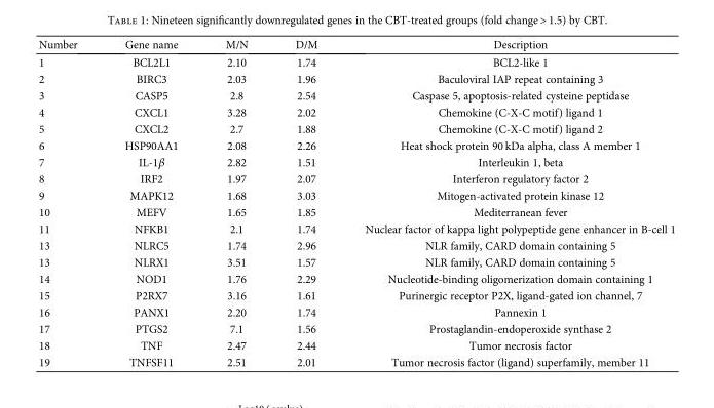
<table><thead><tr><td>Number</td><td>Gene name</td><td>M/N</td><td>D/M</td><td>Description</td></tr></thead><tbody><tr><td>1</td><td>BCL2L1</td><td>2.10</td><td>1.74</td><td>BCL2-like 1</td></tr><tr><td>2</td><td>BIRC3</td><td>2.03</td><td>1.96</td><td>Baculoviral IAP repeat containing 3</td></tr><tr><td>3</td><td>CASP5</td><td>2.8</td><td>2.54</td><td>Caspase 5, apoptosis-related cysteine peptidase</td></tr><tr><td>4</td><td>CXCL1</td><td>3.28</td><td>2.02</td><td>Chemokine (C-X-C motif) ligand 1</td></tr><tr><td>5</td><td>CXCL2</td><td>2.7</td><td>1.88</td><td>Chemokine (C-X-C motif) ligand 2</td></tr><tr><td>6</td><td>HSP90AA1</td><td>2.08</td><td>2.26</td><td>Heat shock protein 90 kDa alpha, class A member 1</td></tr><tr><td>7</td><td>IL-1β</td><td>2.82</td><td>1.51</td><td>Interleukin 1, beta</td></tr><tr><td>8</td><td>IRF2</td><td>1.97</td><td>2.07</td><td>Interferon regulatory factor 2</td></tr><tr><td>9</td><td>MAPK12</td><td>1.68</td><td>3.03</td><td>Mitogen-activated protein kinase 12</td></tr><tr><td>10</td><td>MEFV</td><td>1.65</td><td>1.85</td><td>Mediterranean fever</td></tr><tr><td>11</td><td>NFKB1</td><td>2.1</td><td>1.74</td><td>Nuclear factor of kappa light polypeptide gene enhancer in B-cell 1</td></tr><tr><td>13</td><td>NLRC5</td><td>1.74</td><td>2.96</td><td>NLR family, CARD domain containing 5</td></tr><tr><td>13</td><td>NLRX1</td><td>3.51</td><td>1.57</td><td>NLR family, CARD domain containing 5</td></tr><tr><td>14</td><td>NOD1</td><td>1.76</td><td>2.29</td><td>Nucleotide-binding oligomerization domain containing 1</td></tr><tr><td>15</td><td>P2RX7</td><td>3.16</td><td>1.61</td><td>Purinergic receptor P2X, ligand-gated ion channel, 7</td></tr><tr><td>16</td><td>PANX1</td><td>2.20</td><td>1.74</td><td>Pannexin 1</td></tr><tr><td>17</td><td>PTGS2</td><td>7.1</td><td>1.56</td><td>Prostaglandin-endoperoxide synthase 2</td></tr><tr><td>18</td><td>TNF</td><td>2.47</td><td>2.44</td><td>Tumor necrosis factor</td></tr><tr><td>19</td><td>TNFSF11</td><td>2.51</td><td>2.01</td><td>Tumor necrosis factor (ligand) superfamily, member 11</td></tr></tbody></table>